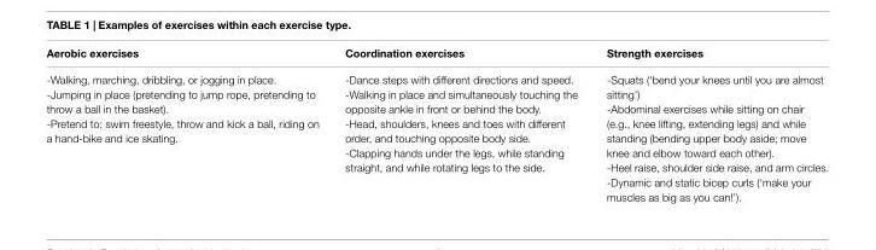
<table><thead><tr><td>Aerobic exercises</td><td>Coordination exercises</td><td>Strength exercises</td></tr></thead><tbody><tr><td>-Walking, marching, dribbling, or jogging in place. -Jumping in place (pretending to jump rope, pretending to throw a ball in the basket). -Pretend to: swim freestyle, throw and kick a ball, riding on a hand-bike and ice skating.</td><td>-Dance steps with different directions and speed. -Walking in place and simultaneously touching the opposite ankle in front or behind the body. -Head, shoulders, knees and toes with different order, and touching opposite body side. -Clapping hands under the legs, while standing straight, and while rotating legs to the side.</td><td>-Squats (‘bend your knees until you are almost sitting’) -Abdominal exercises while sitting on chair (e.g., knee lifting, extending legs) and while standing (bending upper body aside; move knee and elbow toward each other). -Heel raise, shoulder side raise, and arm circles. -Dynamic and static bicep curls (‘make your muscles as big as you can!’).</td></tr></tbody></table>